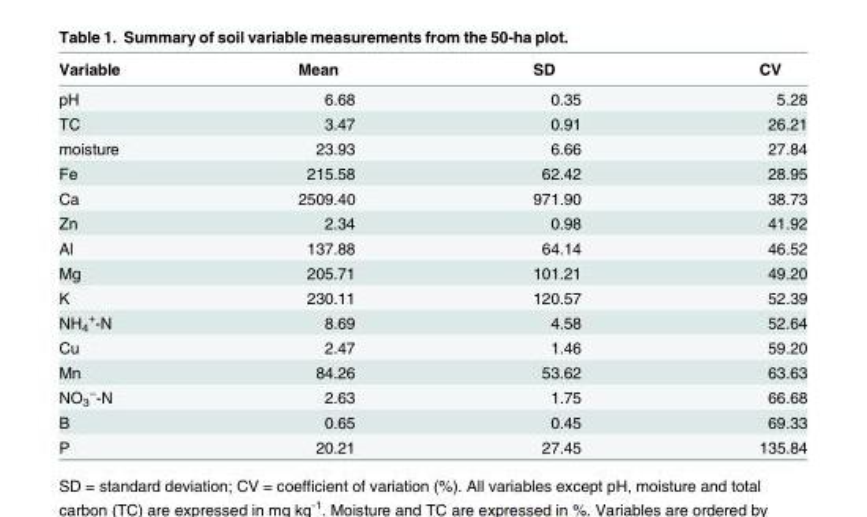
<table><thead><tr><td>Variable</td><td>Mean</td><td>SD</td><td>CV</td></tr></thead><tbody><tr><td>pH</td><td>6.68</td><td>0.35</td><td>5.28</td></tr><tr><td>TC</td><td>3.47</td><td>0.91</td><td>26.21</td></tr><tr><td>moisture</td><td>23.93</td><td>6.66</td><td>27.84</td></tr><tr><td>Fe</td><td>215.58</td><td>62.42</td><td>28.95</td></tr><tr><td>Ca</td><td>2509.40</td><td>971.90</td><td>38.73</td></tr><tr><td>Zn</td><td>2.34</td><td>0.98</td><td>41.92</td></tr><tr><td>Al</td><td>137.88</td><td>64.14</td><td>46.52</td></tr><tr><td>Mg</td><td>205.71</td><td>101.21</td><td>49.20</td></tr><tr><td>K</td><td>230.11</td><td>120.57</td><td>52.39</td></tr><tr><td>NH<sub>4</sub> <sup>+</sup>-N</td><td>8.69</td><td>4.58</td><td>52.64</td></tr><tr><td>Cu</td><td>2.47</td><td>1.46</td><td>59.20</td></tr><tr><td>Mn</td><td>84.26</td><td>53.62</td><td>63.63</td></tr><tr><td>NO<sub>3</sub> <sup>−</sup>-N</td><td>2.63</td><td>1.75</td><td>66.68</td></tr><tr><td>B</td><td>0.65</td><td>0.45</td><td>69.33</td></tr><tr><td>P</td><td>20.21</td><td>27.45</td><td>135.84</td></tr></tbody></table>